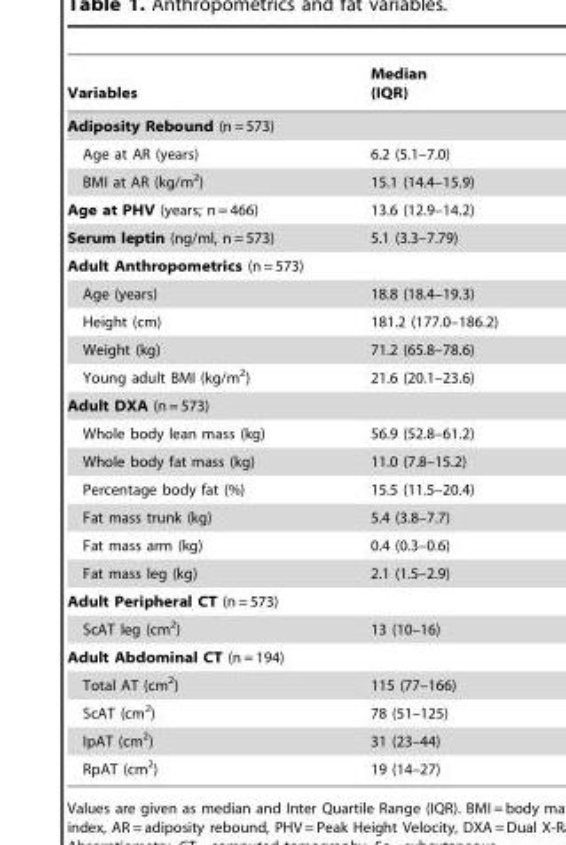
<table><thead><tr><td>Variables</td><td>Median (IQR)</td></tr></thead><tbody><tr><td colspan="2">Adiposity Rebound (n = 573)</td></tr><tr><td>Age at AR (years)</td><td>6.2 (5.1–7.0)</td></tr><tr><td>BMI at AR (kg/m<sup>2</sup>)</td><td>15.1 (14.4–15.9)</td></tr><tr><td>Age at PHV (years; n = 466)</td><td>13.6 (12.9–14.2)</td></tr><tr><td>Serum leptin (ng/ml, n = 573)</td><td>5.1 (3.3–7.79)</td></tr><tr><td colspan="2">Adult Anthropometrics (n = 573)</td></tr><tr><td>Age (years)</td><td>18.8 (18.4–19.3)</td></tr><tr><td>Height (cm)</td><td>181.2 (177.0–186.2)</td></tr><tr><td>Weight (kg)</td><td>71.2 (65.8–78.6)</td></tr><tr><td>Young adult BMI (kg/m<sup>2</sup>)</td><td>21.6 (20.1–23.6)</td></tr><tr><td colspan="2">Adult DXA (n = 573)</td></tr><tr><td>Whole body lean mass (kg)</td><td>56.9 (52.8–61.2)</td></tr><tr><td>Whole body fat mass (kg)</td><td>11.0 (7.8–15.2)</td></tr><tr><td>Percentage body fat (%)</td><td>15.5 (11.5–20.4)</td></tr><tr><td>Fat mass trunk (kg)</td><td>5.4 (3.8–7.7)</td></tr><tr><td>Fat mass arm (kg)</td><td>0.4 (0.3–0.6)</td></tr><tr><td>Fat mass leg (kg)</td><td>2.1 (1.5–2.9)</td></tr><tr><td colspan="2">Adult Peripheral CT (n = 573)</td></tr><tr><td>ScAT leg (cm<sup>2</sup>)</td><td>13 (10–16)</td></tr><tr><td colspan="2">Adult Abdominal CT (n = 194)</td></tr><tr><td>Total AT (cm<sup>2</sup>)</td><td>115 (77–166)</td></tr><tr><td>ScAT (cm<sup>2</sup>)</td><td>78 (51–125)</td></tr><tr><td>IpAT (cm<sup>2</sup>)</td><td>31 (23–44)</td></tr><tr><td>RpAT (cm<sup>2</sup>)</td><td>19 (14–27)</td></tr></tbody></table>